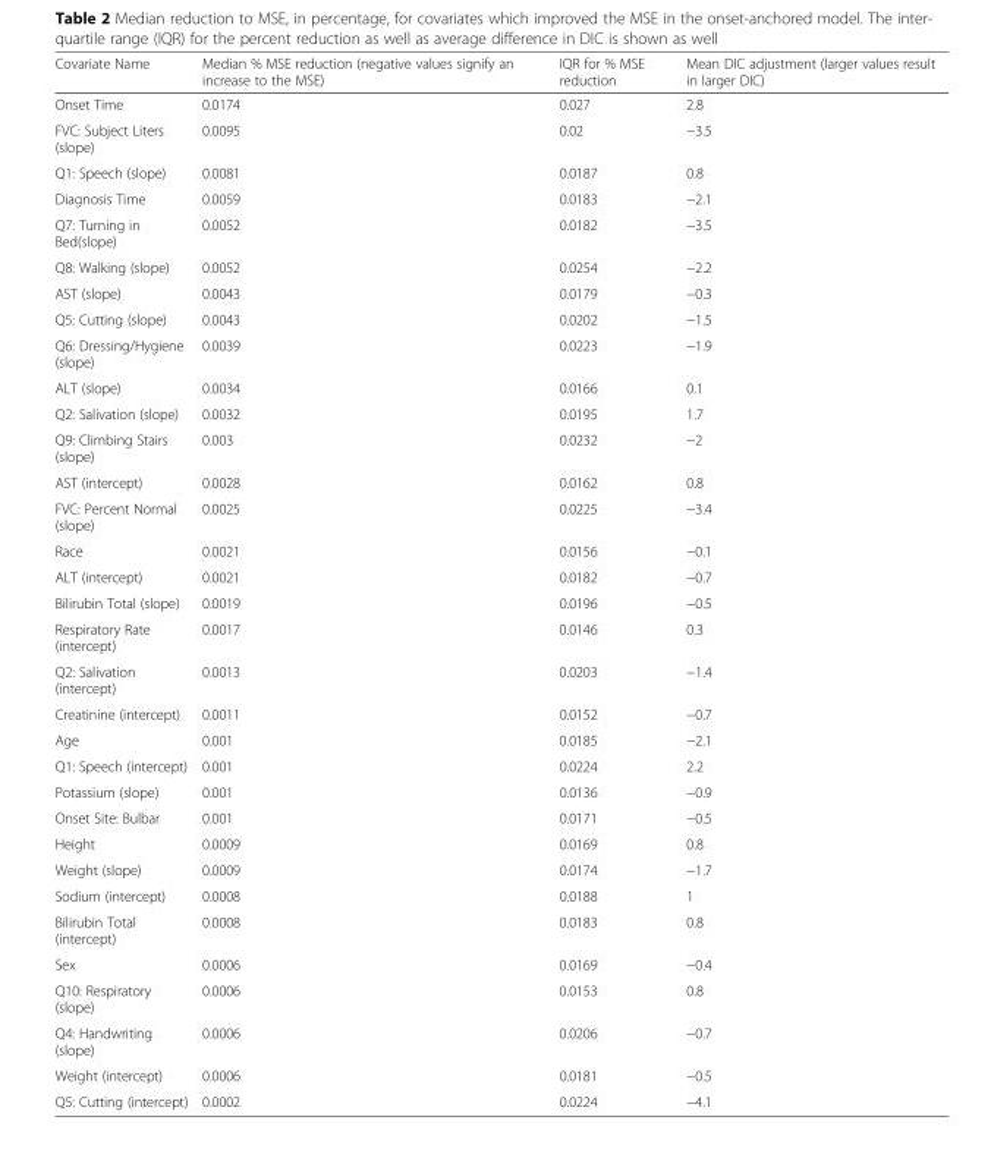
<table><thead><tr><td>Covariate Name</td><td>Median % MSE reduction (negative values signify an increase to the MSE)</td><td>IQR for % MSE reduction</td><td>Mean DIC adjustment (larger values result in larger DIC)</td></tr></thead><tbody><tr><td>Onset Time</td><td>0.0174</td><td>0.027</td><td>2.8</td></tr><tr><td>FVC: Subject Liters (slope)</td><td>0.0095</td><td>0.02</td><td>−3.5</td></tr><tr><td>Q1: Speech (slope)</td><td>0.0081</td><td>0.0187</td><td>0.8</td></tr><tr><td>Diagnosis Time</td><td>0.0059</td><td>0.0183</td><td>−2.1</td></tr><tr><td>Q7: Turning in Bed(slope)</td><td>0.0052</td><td>0.0182</td><td>−3.5</td></tr><tr><td>Q8: Walking (slope)</td><td>0.0052</td><td>0.0254</td><td>−2.2</td></tr><tr><td>AST (slope)</td><td>0.0043</td><td>0.0179</td><td>−0.3</td></tr><tr><td>Q5: Cutting (slope)</td><td>0.0043</td><td>0.0202</td><td>−1.5</td></tr><tr><td>Q6: Dressing/Hygiene (slope)</td><td>0.0039</td><td>0.0223</td><td>−1.9</td></tr><tr><td>ALT (slope)</td><td>0.0034</td><td>0.0166</td><td>0.1</td></tr><tr><td>Q2: Salivation (slope)</td><td>0.0032</td><td>0.0195</td><td>1.7</td></tr><tr><td>Q9: Climbing Stairs (slope)</td><td>0.003</td><td>0.0232</td><td>−2</td></tr><tr><td>AST (intercept)</td><td>0.0028</td><td>0.0162</td><td>0.8</td></tr><tr><td>FVC: Percent Normal (slope)</td><td>0.0025</td><td>0.0225</td><td>−3.4</td></tr><tr><td>Race</td><td>0.0021</td><td>0.0156</td><td>−0.1</td></tr><tr><td>ALT (intercept)</td><td>0.0021</td><td>0.0182</td><td>−0.7</td></tr><tr><td>Bilirubin Total (slope)</td><td>0.0019</td><td>0.0196</td><td>−0.5</td></tr><tr><td>Respiratory Rate (intercept)</td><td>0.0017</td><td>0.0146</td><td>0.3</td></tr><tr><td>Q2: Salivation (intercept)</td><td>0.0013</td><td>0.0203</td><td>−1.4</td></tr><tr><td>Creatinine (intercept)</td><td>0.0011</td><td>0.0152</td><td>−0.7</td></tr><tr><td>Age</td><td>0.001</td><td>0.0185</td><td>−2.1</td></tr><tr><td>Q1: Speech (intercept)</td><td>0.001</td><td>0.0224</td><td>2.2</td></tr><tr><td>Potassium (slope)</td><td>0.001</td><td>0.0136</td><td>−0.9</td></tr><tr><td>Onset Site: Bulbar</td><td>0.001</td><td>0.0171</td><td>−0.5</td></tr><tr><td>Height</td><td>0.0009</td><td>0.0169</td><td>0.8</td></tr><tr><td>Weight (slope)</td><td>0.0009</td><td>0.0174</td><td>−1.7</td></tr><tr><td>Sodium (intercept)</td><td>0.0008</td><td>0.0188</td><td>1</td></tr><tr><td>Bilirubin Total (intercept)</td><td>0.0008</td><td>0.0183</td><td>0.8</td></tr><tr><td>Sex</td><td>0.0006</td><td>0.0169</td><td>−0.4</td></tr><tr><td>Q10: Respiratory (slope)</td><td>0.0006</td><td>0.0153</td><td>0.8</td></tr><tr><td>Q4: Handwriting (slope)</td><td>0.0006</td><td>0.0206</td><td>−0.7</td></tr><tr><td>Weight (intercept)</td><td>0.0006</td><td>0.0181</td><td>−0.5</td></tr><tr><td>Q5: Cutting (intercept)</td><td>0.0002</td><td>0.0224</td><td>−4.1</td></tr></tbody></table>